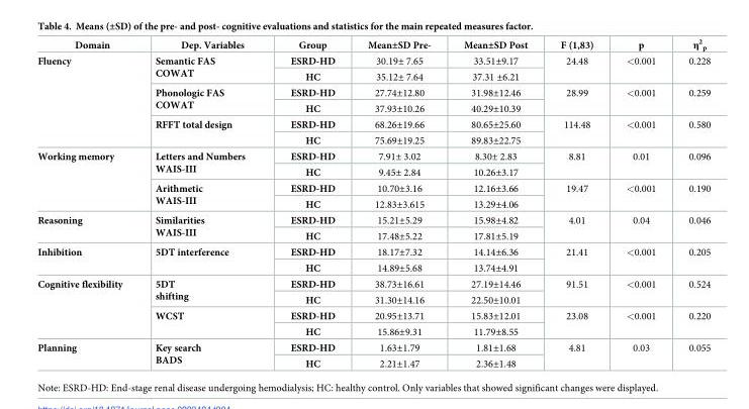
<table><thead><tr><td>Domain</td><td>Dep. Variables</td><td>Group</td><td>Mean±SD Pre-</td><td>Mean±SD Post</td><td>F (1,83)</td><td>p</td><td>η2 p</td></tr></thead><tbody><tr><td rowspan="6">Fluency</td><td rowspan="2">Semantic FAS COWAT</td><td>ESRD-HD</td><td>30.19± 7.65</td><td>33.51±9.17</td><td rowspan="2">24.48</td><td rowspan="2">&lt;0.001</td><td rowspan="2">0.228</td></tr><tr><td>HC</td><td>35.12± 7.64</td><td>37.31 ±6.21</td></tr><tr><td rowspan="2">Phonologic FAS COWAT</td><td>ESRD-HD</td><td>27.74±12.80</td><td>31.98±12.46</td><td rowspan="2">28.99</td><td rowspan="2">&lt;0.001</td><td rowspan="2">0.259</td></tr><tr><td>HC</td><td>37.93±10.26</td><td>40.29±10.39</td></tr><tr><td rowspan="2">RFFT total design</td><td>ESRD-HD</td><td>68.26±19.66</td><td>80.65±25.60</td><td rowspan="2">114.48</td><td rowspan="2">&lt;0.001</td><td rowspan="2">0.580</td></tr><tr><td>HC</td><td>75.69±19.25</td><td>89.83±22.75</td></tr><tr><td rowspan="4">Working memory</td><td rowspan="2">Letters and Numbers WAIS-III</td><td>ESRD-HD</td><td>7.91± 3.02</td><td>8.30± 2.83</td><td rowspan="2">8.81</td><td rowspan="2">0.01</td><td rowspan="2">0.096</td></tr><tr><td>HC</td><td>9.45± 2.84</td><td>10.26±3.17</td></tr><tr><td rowspan="2">Arithmetic WAIS-III</td><td>ESRD-HD</td><td>10.70±3.16</td><td>12.16±3.66</td><td rowspan="2">19.47</td><td rowspan="2">&lt;0.001</td><td rowspan="2">0.190</td></tr><tr><td>HC</td><td>12.83±3.615</td><td>13.29±4.06</td></tr><tr><td rowspan="2">Reasoning</td><td rowspan="2">Similarities WAIS-III</td><td>ESRD-HD</td><td>15.21±5.29</td><td>15.98±4.82</td><td rowspan="2">4.01</td><td rowspan="2">0.04</td><td rowspan="2">0.046</td></tr><tr><td>HC</td><td>17.48±5.22</td><td>17.81±5.19</td></tr><tr><td rowspan="2">Inhibition</td><td rowspan="2">5DT interference</td><td>ESRD-HD</td><td>18.17±7.32</td><td>14.14±6.36</td><td rowspan="2">21.41</td><td rowspan="2">&lt;0.001</td><td rowspan="2">0.205</td></tr><tr><td>HC</td><td>14.89±5.68</td><td>13.74±4.91</td></tr><tr><td rowspan="4">Cognitive flexibility</td><td rowspan="2">5DT shifting</td><td>ESRD-HD</td><td>38.73±16.61</td><td>27.19±14.46</td><td rowspan="2">91.51</td><td rowspan="2">&lt;0.001</td><td rowspan="2">0.524</td></tr><tr><td>HC</td><td>31.30±14.16</td><td>22.50±10.01</td></tr><tr><td rowspan="2">WCST</td><td>ESRD-HD</td><td>20.95±13.71</td><td>15.83±12.01</td><td rowspan="2">23.08</td><td rowspan="2">&lt;0.001</td><td rowspan="2">0.220</td></tr><tr><td>HC</td><td>15.86±9.31</td><td>11.79±8.55</td></tr><tr><td rowspan="2">Planning</td><td rowspan="2">Key search BADS</td><td>ESRD-HD</td><td>1.63±1.79</td><td>1.81±1.68</td><td rowspan="2">4.81</td><td rowspan="2">0.03</td><td rowspan="2">0.055</td></tr><tr><td>HC</td><td>2.21±1.47</td><td>2.36±1.48</td></tr></tbody></table>